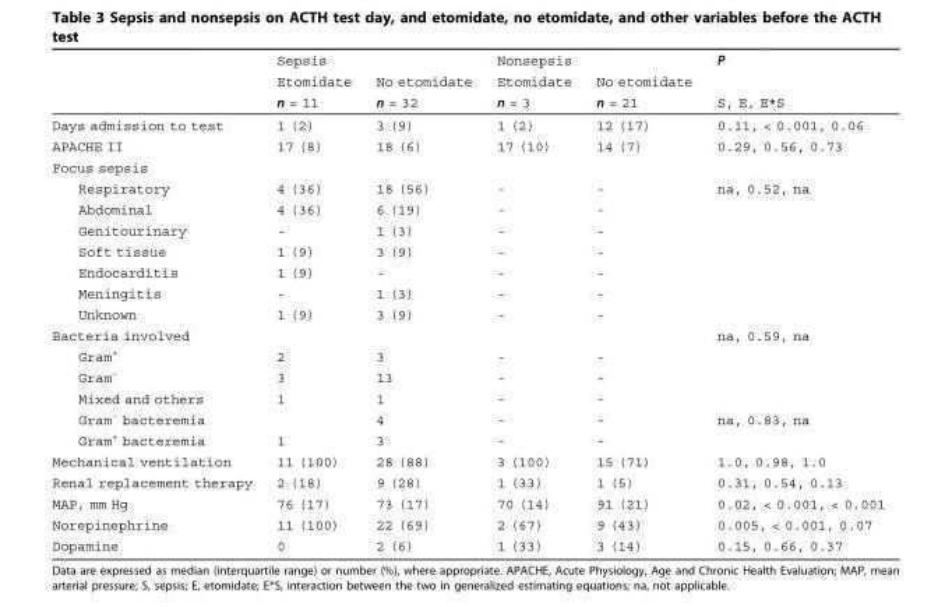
<table><thead><tr><td rowspan="3"></td><td colspan="2">Sepsis</td><td colspan="2">Nonsepsis</td><td rowspan="3">P S, E, E*S</td></tr><tr><td rowspan="2">Etomidate n = 11</td><td rowspan="2">No etomidate n = 32</td><td rowspan="2">Etomidate n = 3</td><td rowspan="2">No etomidate n = 21</td></tr><tr></tr></thead><tbody><tr><td>Days admission to test</td><td>1 (2)</td><td>3 (9)</td><td>1 (2)</td><td>12 (17)</td><td>0.11, &lt; 0.001, 0.06</td></tr><tr><td>APACHE II</td><td>17 (8)</td><td>18 (6)</td><td>17 (10)</td><td>14 (7)</td><td>0.29, 0.56, 0.73</td></tr><tr><td colspan="6">Focus sepsis</td></tr><tr><td>Respiratory</td><td>4 (36)</td><td>18 (56)</td><td>-</td><td>-</td><td>na, 0.52, na</td></tr><tr><td>Abdominal</td><td>4 (36)</td><td>6 (19)</td><td>-</td><td colspan="2">-</td></tr><tr><td>Genitourinary</td><td>-</td><td>1 (3)</td><td>-</td><td colspan="2">-</td></tr><tr><td>Soft tissue</td><td>1 (9)</td><td>3 (9)</td><td>-</td><td colspan="2">-</td></tr><tr><td>Endocarditis</td><td>1 (9)</td><td>-</td><td>-</td><td colspan="2">-</td></tr><tr><td>Meningitis</td><td>-</td><td>1 (3)</td><td>-</td><td colspan="2">-</td></tr><tr><td>Unknown</td><td>1 (9)</td><td>3 (9)</td><td>-</td><td colspan="2">-</td></tr><tr><td>Bacteria involved</td><td></td><td></td><td></td><td></td><td>na, 0.59, na</td></tr><tr><td>Gram<sup>+</sup></td><td>2</td><td>3</td><td>-</td><td colspan="2">-</td></tr><tr><td>Gram<sup>-</sup></td><td>3</td><td>13</td><td>-</td><td colspan="2">-</td></tr><tr><td>Mixed and others</td><td>1</td><td>1</td><td>-</td><td colspan="2">-</td></tr><tr><td>Gram<sup>-</sup> bacteremia</td><td></td><td>4</td><td>-</td><td>-</td><td>na, 0.83, na</td></tr><tr><td>Gram<sup>+</sup> bacteremia</td><td>1</td><td>3</td><td>-</td><td colspan="2">-</td></tr><tr><td>Mechanical ventilation</td><td>11 (100)</td><td>28 (88)</td><td>3 (100)</td><td>15 (71)</td><td>1.0, 0.98, 1.0</td></tr><tr><td>Renal replacement therapy</td><td>2 (18)</td><td>9 (28)</td><td>1 (33)</td><td>1 (5)</td><td>0.31, 0.54, 0.13</td></tr><tr><td>MAP, mm Hg</td><td>76 (17)</td><td>73 (17)</td><td>70 (14)</td><td>91 (21)</td><td>0.02, &lt; 0.001, &lt; 0.001</td></tr><tr><td>Norepinephrine</td><td>11 (100)</td><td>22 (69)</td><td>2 (67)</td><td>9 (43)</td><td>0.005, &lt; 0.001, 0.07</td></tr><tr><td>Dopamine</td><td>0</td><td>2 (6)</td><td>1 (33)</td><td>3 (14)</td><td>0.15, 0.66, 0.37</td></tr></tbody></table>